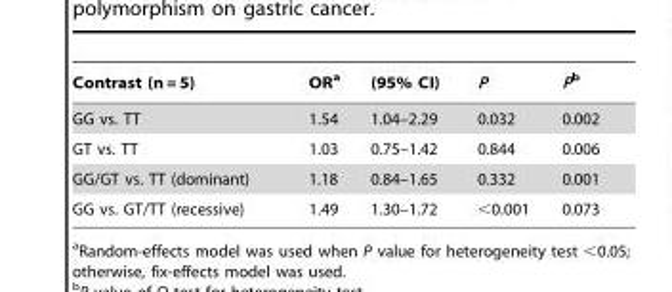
<table><thead><tr><td>Contrast (n = 5)</td><td>OR<sup>a</sup></td><td>(95% CI)</td><td>P</td><td>Pb</td></tr></thead><tbody><tr><td>GG vs. TT</td><td>1.54</td><td>1.04–2.29</td><td>0.032</td><td>0.002</td></tr><tr><td>GT vs. TT</td><td>1.03</td><td>0.75–1.42</td><td>0.844</td><td>0.006</td></tr><tr><td>GG/GT vs. TT (dominant)</td><td>1.18</td><td>0.84–1.65</td><td>0.332</td><td>0.001</td></tr><tr><td>GG vs. GT/TT (recessive)</td><td>1.49</td><td>1.30–1.72</td><td>&lt;0.001</td><td>0.073</td></tr></tbody></table>